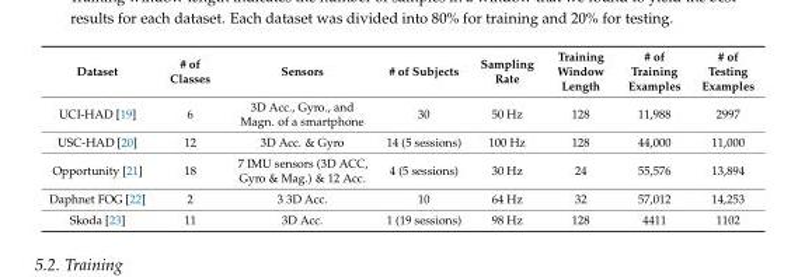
<table><thead><tr><td>Dataset</td><td># of Classes</td><td>Sensors</td><td># of Subjects</td><td>Sampling Rate</td><td>Training Window Length</td><td># of Training Examples</td><td># of Testing Examples</td></tr></thead><tbody><tr><td>UCI-HAD [19]</td><td>6</td><td>3D Acc., Gyro., and Magn. of a smartphone</td><td>30</td><td>50 Hz</td><td>128</td><td>11,988</td><td>2997</td></tr><tr><td>USC-HAD [20]</td><td>12</td><td>3D Acc. &amp; Gyro</td><td>14 (5 sessions)</td><td>100 Hz</td><td>128</td><td>44,000</td><td>11,000</td></tr><tr><td>Opportunity [21]</td><td>18</td><td>7 IMU sensors (3D ACC, Gyro &amp; Mag.) &amp; 12 Acc.</td><td>4 (5 sessions)</td><td>30 Hz</td><td>24</td><td>55,576</td><td>13,894</td></tr><tr><td>Daphnet FOG [22]</td><td>2</td><td>3 3D Acc.</td><td>10</td><td>64 Hz</td><td>32</td><td>57,012</td><td>14,253</td></tr><tr><td>Skoda [23]</td><td>11</td><td>3D Acc.</td><td>1 (19 sessions)</td><td>98 Hz</td><td>128</td><td>4411</td><td>1102</td></tr></tbody></table>